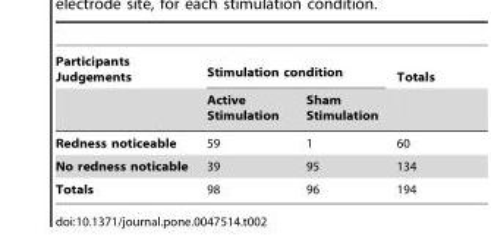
<table><thead><tr><td rowspan="2">Participants Judgements</td><td colspan="2">Stimulation condition</td><td rowspan="2">Totals</td></tr><tr><td>Active Stimulation</td><td>Sham Stimulation</td></tr></thead><tbody><tr><td>Redness noticeable</td><td>59</td><td>1</td><td>60</td></tr><tr><td>No redness noticable</td><td>39</td><td>95</td><td>134</td></tr><tr><td>Totals</td><td>98</td><td>96</td><td>194</td></tr></tbody></table>